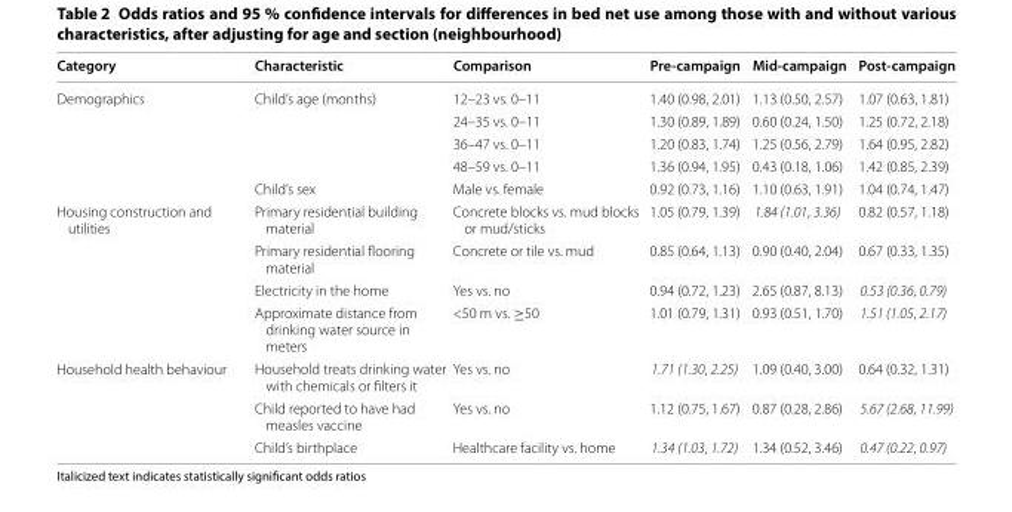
<table><thead><tr><td>Category</td><td>Characteristic</td><td>Comparison</td><td>Pre-campaign</td><td>Mid-campaign</td><td>Post-campaign</td></tr></thead><tbody><tr><td rowspan="5">Demographics</td><td rowspan="4">Child’s age (months)</td><td>12–23 vs. 0–11</td><td>1.40 (0.98, 2.01)</td><td>1.13 (0.50, 2.57)</td><td>1.07 (0.63, 1.81)</td></tr><tr><td>24–35 vs. 0–11</td><td>1.30 (0.89, 1.89)</td><td>0.60 (0.24, 1.50)</td><td>1.25 (0.72, 2.18)</td></tr><tr><td>36–47 vs. 0–11</td><td>1.20 (0.83, 1.74)</td><td>1.25 (0.56, 2.79)</td><td>1.64 (0.95, 2.82)</td></tr><tr><td>48–59 vs. 0–11</td><td>1.36 (0.94, 1.95)</td><td>0.43 (0.18, 1.06)</td><td>1.42 (0.85, 2.39)</td></tr><tr><td>Child’s sex</td><td>Male vs. female</td><td>0.92 (0.73, 1.16)</td><td>1.10 (0.63, 1.91)</td><td>1.04 (0.74, 1.47)</td></tr><tr><td rowspan="4">Housing construction and utilities</td><td>Primary residential building material</td><td>Concrete blocks vs. mud blocks or mud/sticks</td><td>1.05 (0.79, 1.39)</td><td>1.84 (1.01, 3.36)</td><td>0.82 (0.57, 1.18)</td></tr><tr><td>Primary residential flooring material</td><td>Concrete or tile vs. mud</td><td>0.85 (0.64, 1.13)</td><td>0.90 (0.40, 2.04)</td><td>0.67 (0.33, 1.35)</td></tr><tr><td>Electricity in the home</td><td>Yes vs. no</td><td>0.94 (0.72, 1.23)</td><td>2.65 (0.87, 8.13)</td><td>0.53 (0.36, 0.79)</td></tr><tr><td>Approximate distance from drinking water source in meters</td><td>&lt;50 m vs. ≥50</td><td>1.01 (0.79, 1.31)</td><td>0.93 (0.51, 1.70)</td><td>1.51 (1.05, 2.17)</td></tr><tr><td rowspan="3">Household health behaviour</td><td>Household treats drinking water with chemicals or filters it</td><td>Yes vs. no</td><td>1.71 (1.30, 2.25)</td><td>1.09 (0.40, 3.00)</td><td>0.64 (0.32, 1.31)</td></tr><tr><td>Child reported to have had measles vaccine</td><td>Yes vs. no</td><td>1.12 (0.75, 1.67)</td><td>0.87 (0.28, 2.86)</td><td>5.67 (2.68, 11.99)</td></tr><tr><td>Child’s birthplace</td><td>Healthcare facility vs. home</td><td>1.34 (1.03, 1.72)</td><td>1.34 (0.52, 3.46)</td><td>0.47 (0.22, 0.97)</td></tr></tbody></table>